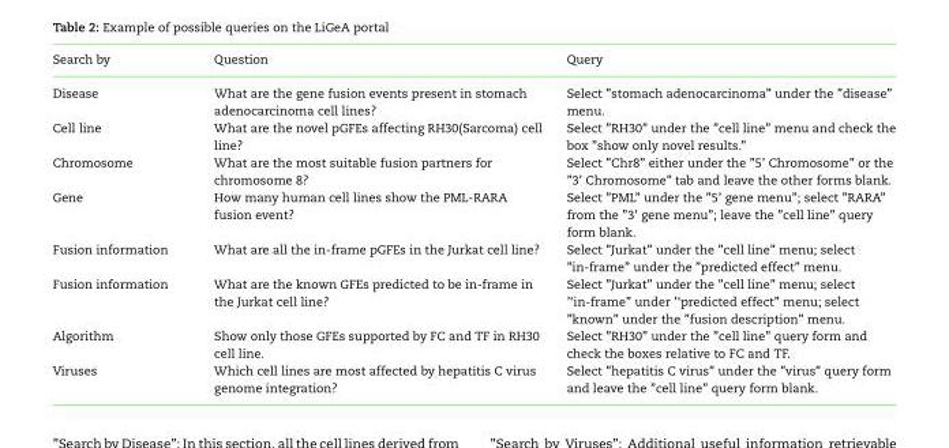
<table><thead><tr><td>Search by</td><td>Question</td><td>Query</td></tr></thead><tbody><tr><td>Disease</td><td>What are the gene fusion events present in stomach adenocarcinoma cell lines?</td><td>Select ”stomach adenocarcinoma” under the ”disease” menu.</td></tr><tr><td>Cell line</td><td>What are the novel pGFEs affecting RH30(Sarcoma) cell line?</td><td>Select ”RH30” under the ”cell line” menu and check the box ”show only novel results.”</td></tr><tr><td>Chromosome</td><td>What are the most suitable fusion partners for chromosome 8?</td><td>Select ”Chr8” either under the ”5’ Chromosome” or the ”3’ Chromosome” tab and leave the other forms blank.</td></tr><tr><td>Gene</td><td>How many human cell lines show the PML-RARA fusion event?</td><td>Select ”PML” under the ”5’ gene menu”; select ”RARA” from the ”3’ gene menu”; leave the ”cell line” query form blank.</td></tr><tr><td>Fusion information</td><td>What are all the in-frame pGFEs in the Jurkat cell line?</td><td>Select ”Jurkat” under the ”cell line” menu; select ”in-frame” under the ”predicted effect” menu.</td></tr><tr><td>Fusion information</td><td>What are the known GFEs predicted to be in-frame in the Jurkat cell line?</td><td>Select ”Jurkat” under the ”cell line” menu; select ’‘in-frame” under ’‘predicted effect” menu; select ”known” under the ”fusion description” menu.</td></tr><tr><td>Algorithm</td><td>Show only those GFEs supported by FC and TF in RH30 cell line.</td><td>Select ”RH30” under the ”cell line” query form and check the boxes relative to FC and TF.</td></tr><tr><td>Viruses</td><td>Which cell lines are most affected by hepatitis C virus genome integration?</td><td>Select ”hepatitis C virus” under the ”virus” query form and leave the ”cell line” query form blank.</td></tr></tbody></table>